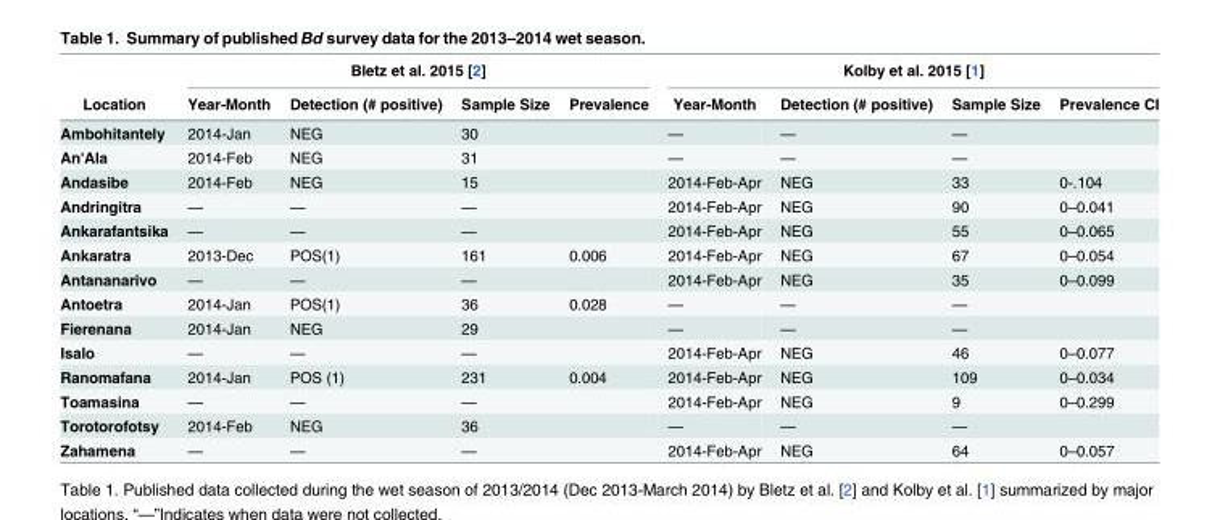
<table><thead><tr><td rowspan="2">Location</td><td colspan="4">Bletz et al. 2015 [2]</td><td colspan="4">Kolby et al. 2015 [1]</td></tr><tr><td>Year-Month</td><td>Detection (# positive)</td><td>Sample Size</td><td>Prevalence</td><td>Year-Month</td><td>Detection (# positive)</td><td>Sample Size</td><td>Prevalence CI</td></tr></thead><tbody><tr><td>Ambohitantely</td><td>2014-Jan</td><td>NEG</td><td>30</td><td></td><td>—</td><td>—</td><td>—</td><td></td></tr><tr><td>An&#x27;Ala</td><td>2014-Feb</td><td>NEG</td><td>31</td><td></td><td>—</td><td>—</td><td>—</td><td></td></tr><tr><td>Andasibe</td><td>2014-Feb</td><td>NEG</td><td>15</td><td></td><td>2014-Feb-Apr</td><td>NEG</td><td>33</td><td>0-.104</td></tr><tr><td>Andringitra</td><td>—</td><td>—</td><td>—</td><td></td><td>2014-Feb-Apr</td><td>NEG</td><td>90</td><td>0–0.041</td></tr><tr><td>Ankarafantsika</td><td>—</td><td>—</td><td>—</td><td></td><td>2014-Feb-Apr</td><td>NEG</td><td>55</td><td>0–0.065</td></tr><tr><td>Ankaratra</td><td>2013-Dec</td><td>POS(1)</td><td>161</td><td>0.006</td><td>2014-Feb-Apr</td><td>NEG</td><td>67</td><td>0–0.054</td></tr><tr><td>Antananarivo</td><td>—</td><td>—</td><td>—</td><td></td><td>2014-Feb-Apr</td><td>NEG</td><td>35</td><td>0–0.099</td></tr><tr><td>Antoetra</td><td>2014-Jan</td><td>POS(1)</td><td>36</td><td>0.028</td><td>—</td><td>—</td><td>—</td><td></td></tr><tr><td>Fierenana</td><td>2014-Jan</td><td>NEG</td><td>29</td><td></td><td>—</td><td>—</td><td>—</td><td></td></tr><tr><td>Isalo</td><td>—</td><td>—</td><td>—</td><td></td><td>2014-Feb-Apr</td><td>NEG</td><td>46</td><td>0–0.077</td></tr><tr><td>Ranomafana</td><td>2014-Jan</td><td>POS (1)</td><td>231</td><td>0.004</td><td>2014-Feb-Apr</td><td>NEG</td><td>109</td><td>0–0.034</td></tr><tr><td>Toamasina</td><td>—</td><td>—</td><td>—</td><td></td><td>2014-Feb-Apr</td><td>NEG</td><td>9</td><td>0–0.299</td></tr><tr><td>Torotorofotsy</td><td>2014-Feb</td><td>NEG</td><td>36</td><td></td><td>—</td><td>—</td><td>—</td><td></td></tr><tr><td>Zahamena</td><td>—</td><td>—</td><td>—</td><td></td><td>2014-Feb-Apr</td><td>NEG</td><td>64</td><td>0–0.057</td></tr></tbody></table>